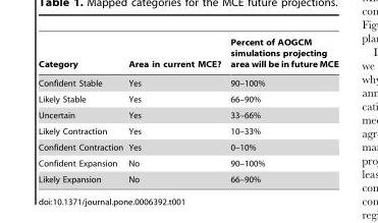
<table><thead><tr><td>Category</td><td>Area in current MCE?</td><td>Percent of AOGCM simulations projecting area will be in future MCE</td></tr></thead><tbody><tr><td>Confident Stable</td><td>Yes</td><td>90–100%</td></tr><tr><td>Likely Stable</td><td>Yes</td><td>66–90%</td></tr><tr><td>Uncertain</td><td>Yes</td><td>33–66%</td></tr><tr><td>Likely Contraction</td><td>Yes</td><td>10–33%</td></tr><tr><td>Confident Contraction</td><td>Yes</td><td>0–10%</td></tr><tr><td>Confident Expansion</td><td>No</td><td>90–100%</td></tr><tr><td>Likely Expansion</td><td>No</td><td>66–90%</td></tr></tbody></table>